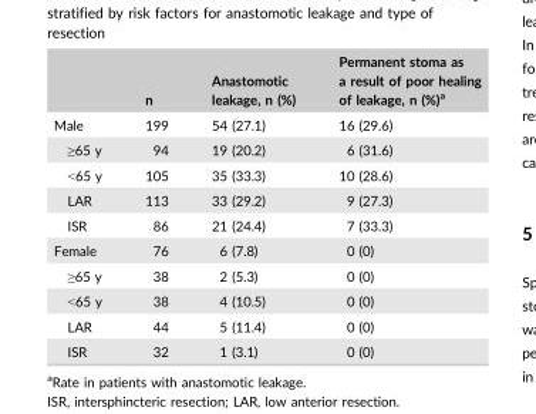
<table><thead><tr><td></td><td>n</td><td>Anastomotic leakage, n (%)</td><td>Permanent stoma as a result of poor healing of leakage, n (%)<sup>a</sup></td></tr></thead><tbody><tr><td>Male</td><td>199</td><td>54 (27.1)</td><td>16 (29.6)</td></tr><tr><td>≥65 y</td><td>94</td><td>19 (20.2)</td><td>6 (31.6)</td></tr><tr><td>&lt;65 y</td><td>105</td><td>35 (33.3)</td><td>10 (28.6)</td></tr><tr><td>LAR</td><td>113</td><td>33 (29.2)</td><td>9 (27.3)</td></tr><tr><td>ISR</td><td>86</td><td>21 (24.4)</td><td>7 (33.3)</td></tr><tr><td>Female</td><td>76</td><td>6 (7.8)</td><td>0 (0)</td></tr><tr><td>≥65 y</td><td>38</td><td>2 (5.3)</td><td>0 (0)</td></tr><tr><td>&lt;65 y</td><td>38</td><td>4 (10.5)</td><td>0 (0)</td></tr><tr><td>LAR</td><td>44</td><td>5 (11.4)</td><td>0 (0)</td></tr><tr><td>ISR</td><td>32</td><td>1 (3.1)</td><td>0 (0)</td></tr></tbody></table>